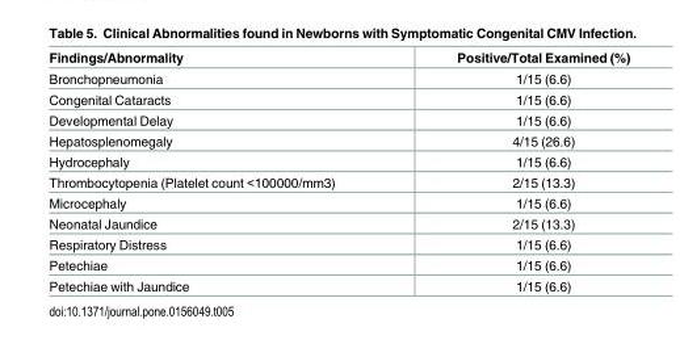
<table><thead><tr><td>Findings/Abnormality</td><td>Positive/Total Examined (%)</td></tr></thead><tbody><tr><td>Bronchopneumonia</td><td>1/15 (6.6)</td></tr><tr><td>Congenital Cataracts</td><td>1/15 (6.6)</td></tr><tr><td>Developmental Delay</td><td>1/15 (6.6)</td></tr><tr><td>Hepatosplenomegaly</td><td>4/15 (26.6)</td></tr><tr><td>Hydrocephaly</td><td>1/15 (6.6)</td></tr><tr><td>Thrombocytopenia (Platelet count &lt;100000/mm3)</td><td>2/15 (13.3)</td></tr><tr><td>Microcephaly</td><td>1/15 (6.6)</td></tr><tr><td>Neonatal Jaundice</td><td>2/15 (13.3)</td></tr><tr><td>Respiratory Distress</td><td>1/15 (6.6)</td></tr><tr><td>Petechiae</td><td>1/15 (6.6)</td></tr><tr><td>Petechiae with Jaundice</td><td>1/15 (6.6)</td></tr></tbody></table>